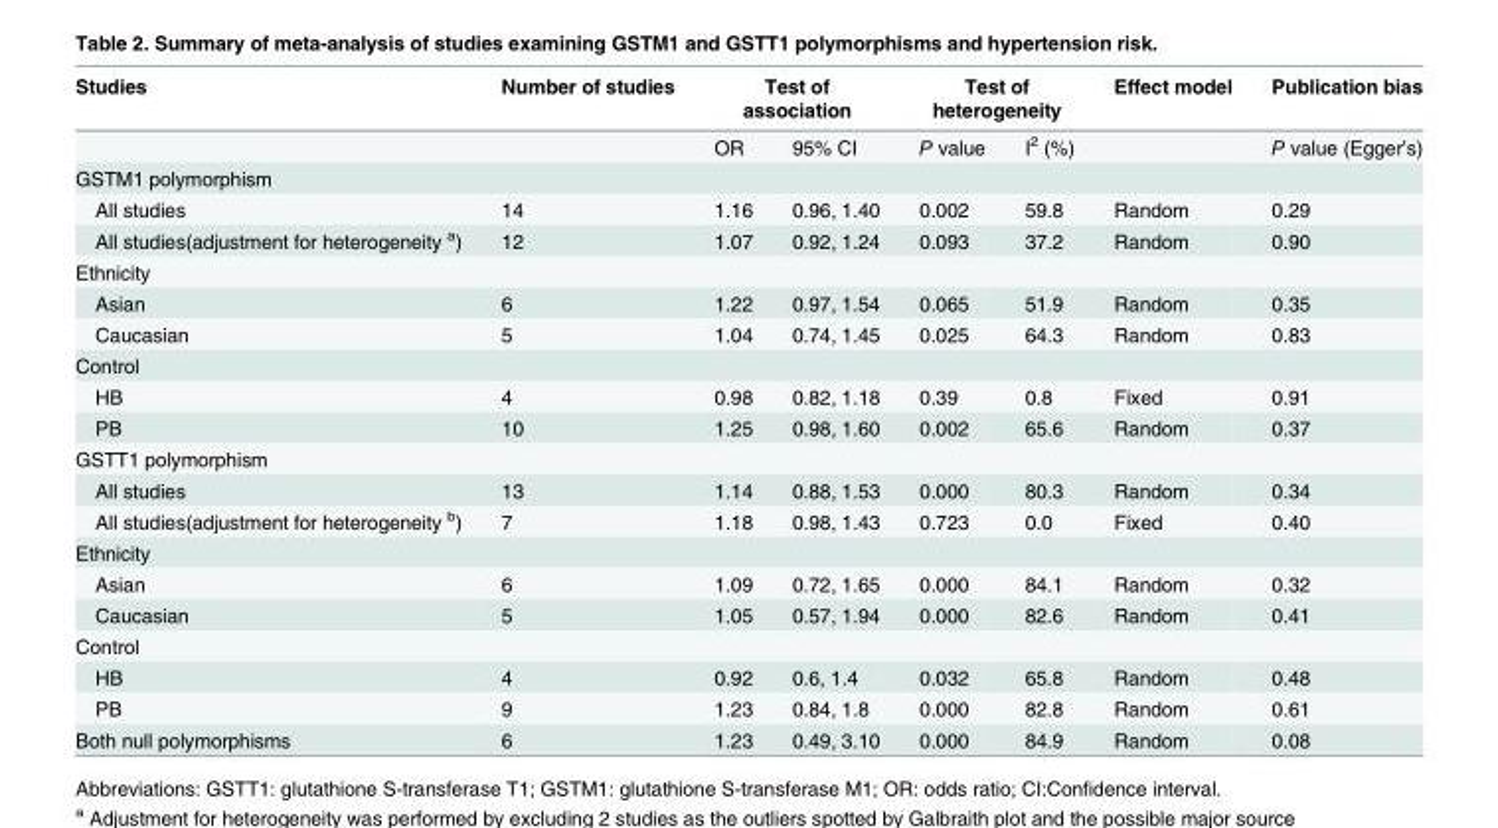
<table><thead><tr><td>Studies</td><td>Number of studies</td><td colspan="2">Test of association</td><td colspan="2">Test of heterogeneity</td><td rowspan="2">Effect model</td><td rowspan="2">Publication bias P value (Egger’s)</td></tr><tr><td colspan="2"></td><td>OR</td><td>95% CI</td><td>P value</td><td>I<sup>2</sup> (%)</td></tr></thead><tbody><tr><td colspan="8">GSTM1 polymorphism</td></tr><tr><td>All studies</td><td>14</td><td>1.16</td><td>0.96, 1.40</td><td>0.002</td><td>59.8</td><td>Random</td><td>0.29</td></tr><tr><td>All studies(adjustment for heterogeneity <sup>a</sup>)</td><td>12</td><td>1.07</td><td>0.92, 1.24</td><td>0.093</td><td>37.2</td><td>Random</td><td>0.90</td></tr><tr><td colspan="8">Ethnicity</td></tr><tr><td>Asian</td><td>6</td><td>1.22</td><td>0.97, 1.54</td><td>0.065</td><td>51.9</td><td>Random</td><td>0.35</td></tr><tr><td>Caucasian</td><td>5</td><td>1.04</td><td>0.74, 1.45</td><td>0.025</td><td>64.3</td><td>Random</td><td>0.83</td></tr><tr><td colspan="8">Control</td></tr><tr><td>HB</td><td>4</td><td>0.98</td><td>0.82, 1.18</td><td>0.39</td><td>0.8</td><td>Fixed</td><td>0.91</td></tr><tr><td>PB</td><td>10</td><td>1.25</td><td>0.98, 1.60</td><td>0.002</td><td>65.6</td><td>Random</td><td>0.37</td></tr><tr><td colspan="8">GSTT1 polymorphism</td></tr><tr><td>All studies</td><td>13</td><td>1.14</td><td>0.88, 1.53</td><td>0.000</td><td>80.3</td><td>Random</td><td>0.34</td></tr><tr><td>All studies(adjustment for heterogeneity <sup>b</sup>)</td><td>7</td><td>1.18</td><td>0.98, 1.43</td><td>0.723</td><td>0.0</td><td>Fixed</td><td>0.40</td></tr><tr><td colspan="8">Ethnicity</td></tr><tr><td>Asian</td><td>6</td><td>1.09</td><td>0.72, 1.65</td><td>0.000</td><td>84.1</td><td>Random</td><td>0.32</td></tr><tr><td>Caucasian</td><td>5</td><td>1.05</td><td>0.57, 1.94</td><td>0.000</td><td>82.6</td><td>Random</td><td>0.41</td></tr><tr><td colspan="8">Control</td></tr><tr><td>HB</td><td>4</td><td>0.92</td><td>0.6, 1.4</td><td>0.032</td><td>65.8</td><td>Random</td><td>0.48</td></tr><tr><td>PB</td><td>9</td><td>1.23</td><td>0.84, 1.8</td><td>0.000</td><td>82.8</td><td>Random</td><td>0.61</td></tr><tr><td>Both null polymorphisms</td><td>6</td><td>1.23</td><td>0.49, 3.10</td><td>0.000</td><td>84.9</td><td>Random</td><td>0.08</td></tr></tbody></table>